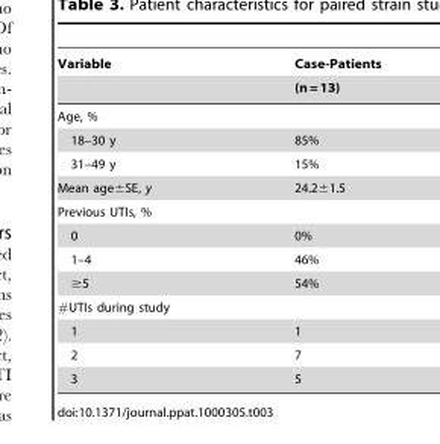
<table><thead><tr><td rowspan="2">Variable</td><td rowspan="2">Case-Patients (n = 13)</td></tr><tr></tr></thead><tbody><tr><td colspan="2">Age, %</td></tr><tr><td>18–30 y</td><td>85%</td></tr><tr><td>31–49 y</td><td>15%</td></tr><tr><td>Mean age±SE, y</td><td>24.2±1.5</td></tr><tr><td colspan="2">Previous UTIs, %</td></tr><tr><td>0</td><td>0%</td></tr><tr><td>1–4</td><td>46%</td></tr><tr><td>≥5</td><td>54%</td></tr><tr><td colspan="2">#UTIs during study</td></tr><tr><td>1</td><td>1</td></tr><tr><td>2</td><td>7</td></tr><tr><td>3</td><td>5</td></tr></tbody></table>